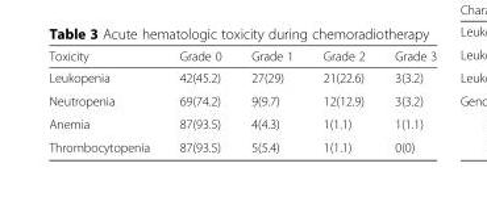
<table><thead><tr><td>Toxicity</td><td>Grade 0</td><td>Grade 1</td><td>Grade 2</td><td>Grade 3</td></tr></thead><tbody><tr><td>Leukopenia</td><td>42(45.2)</td><td>27(29)</td><td>21(22.6)</td><td>3(3.2)</td></tr><tr><td>Neutropenia</td><td>69(74.2)</td><td>9(9.7)</td><td>12(12.9)</td><td>3(3.2)</td></tr><tr><td>Anemia</td><td>87(93.5)</td><td>4(4.3)</td><td>1(1.1)</td><td>1(1.1)</td></tr><tr><td>Thrombocytopenia</td><td>87(93.5)</td><td>5(5.4)</td><td>1(1.1)</td><td>0(0)</td></tr></tbody></table>